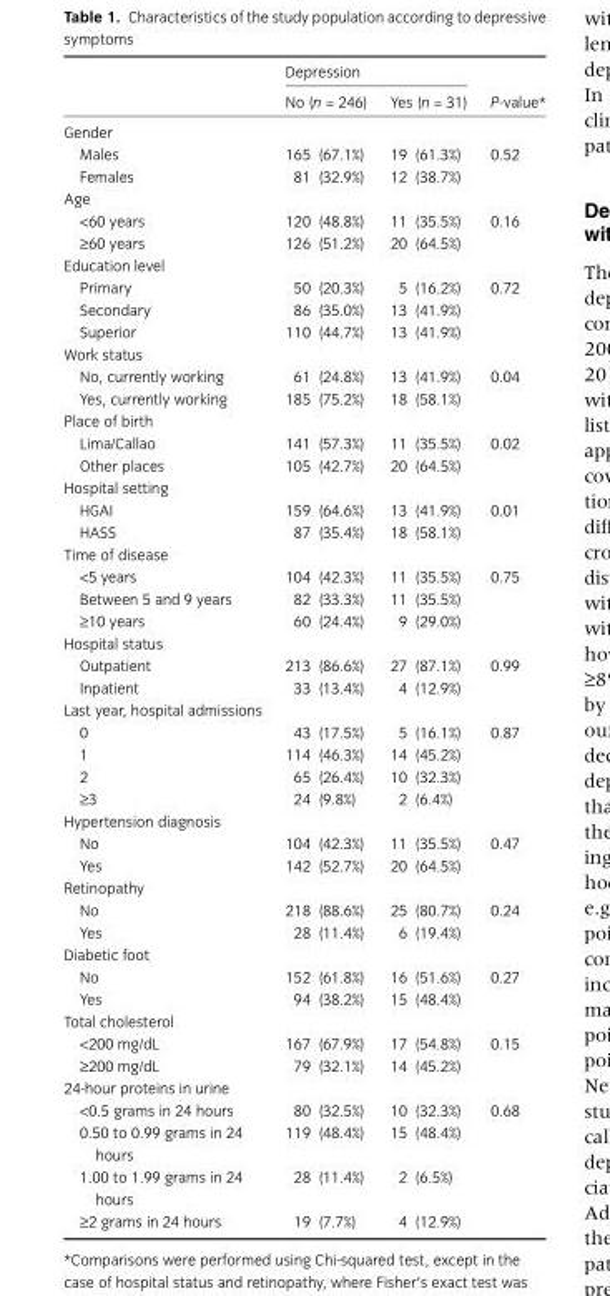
<table><thead><tr><td rowspan="2"></td><td colspan="2">Depression</td><td rowspan="2">P-value*</td></tr><tr><td>No (n = 246)</td><td>Yes (n = 31)</td></tr></thead><tbody><tr><td colspan="4">Gender</td></tr><tr><td>Males</td><td>165 (67.1%)</td><td>19 (61.3%)</td><td>0.52</td></tr><tr><td>Females</td><td>81 (32.9%)</td><td>12 (38.7%)</td><td></td></tr><tr><td colspan="4">Age</td></tr><tr><td>&lt;60 years</td><td>120 (48.8%)</td><td>11 (35.5%)</td><td>0.16</td></tr><tr><td>≥60 years</td><td>126 (51.2%)</td><td>20 (64.5%)</td><td></td></tr><tr><td colspan="4">Education level</td></tr><tr><td>Primary</td><td>50 (20.3%)</td><td>5 (16.2%)</td><td>0.72</td></tr><tr><td>Secondary</td><td>86 (35.0%)</td><td>13 (41.9%)</td><td></td></tr><tr><td>Superior</td><td>110 (44.7%)</td><td>13 (41.9%)</td><td></td></tr><tr><td colspan="4">Work status</td></tr><tr><td>No, currently working</td><td>61 (24.8%)</td><td>13 (41.9%)</td><td>0.04</td></tr><tr><td>Yes, currently working</td><td>185 (75.2%)</td><td>18 (58.1%)</td><td></td></tr><tr><td colspan="4">Place of birth</td></tr><tr><td>Lima/Callao</td><td>141 (57.3%)</td><td>11 (35.5%)</td><td>0.02</td></tr><tr><td>Other places</td><td>105 (42.7%)</td><td>20 (64.5%)</td><td></td></tr><tr><td colspan="4">Hospital setting</td></tr><tr><td>HGAI</td><td>159 (64.6%)</td><td>13 (41.9%)</td><td>0.01</td></tr><tr><td>HASS</td><td>87 (35.4%)</td><td>18 (58.1%)</td><td></td></tr><tr><td colspan="4">Time of disease</td></tr><tr><td>&lt;5 years</td><td>104 (42.3%)</td><td>11 (35.5%)</td><td>0.75</td></tr><tr><td>Between 5 and 9 years</td><td>82 (33.3%)</td><td>11 (35.5%)</td><td></td></tr><tr><td>≥10 years</td><td>60 (24.4%)</td><td>9 (29.0%)</td><td></td></tr><tr><td colspan="4">Hospital status</td></tr><tr><td>Outpatient</td><td>213 (86.6%)</td><td>27 (87.1%)</td><td>0.99</td></tr><tr><td>Inpatient</td><td>33 (13.4%)</td><td>4 (12.9%)</td><td></td></tr><tr><td colspan="4">Last year, hospital admissions</td></tr><tr><td>0</td><td>43 (17.5%)</td><td>5 (16.1%)</td><td>0.87</td></tr><tr><td>1</td><td>114 (46.3%)</td><td>14 (45.2%)</td><td></td></tr><tr><td>2</td><td>65 (26.4%)</td><td>10 (32.3%)</td><td></td></tr><tr><td>≥3</td><td>24 (9.8%)</td><td>2 (6.4%)</td><td></td></tr><tr><td colspan="4">Hypertension diagnosis</td></tr><tr><td>No</td><td>104 (42.3%)</td><td>11 (35.5%)</td><td>0.47</td></tr><tr><td>Yes</td><td>142 (52.7%)</td><td>20 (64.5%)</td><td></td></tr><tr><td colspan="4">Retinopathy</td></tr><tr><td>No</td><td>218 (88.6%)</td><td>25 (80.7%)</td><td>0.24</td></tr><tr><td>Yes</td><td>28 (11.4%)</td><td>6 (19.4%)</td><td></td></tr><tr><td colspan="4">Diabetic foot</td></tr><tr><td>No</td><td>152 (61.8%)</td><td>16 (51.6%)</td><td>0.27</td></tr><tr><td>Yes</td><td>94 (38.2%)</td><td>15 (48.4%)</td><td></td></tr><tr><td colspan="4">Total cholesterol</td></tr><tr><td>&lt;200 mg/dL</td><td>167 (67.9%)</td><td>17 (54.8%)</td><td>0.15</td></tr><tr><td>≥200 mg/dL</td><td>79 (32.1%)</td><td>14 (45.2%)</td><td></td></tr><tr><td colspan="4">24-hour proteins in urine</td></tr><tr><td>&lt;0.5 grams in 24 hours</td><td>80 (32.5%)</td><td>10 (32.3%)</td><td>0.68</td></tr><tr><td>0.50 to 0.99 grams in 24 hours</td><td>119 (48.4%)</td><td>15 (48.4%)</td><td></td></tr><tr><td>1.00 to 1.99 grams in 24 hours</td><td>28 (11.4%)</td><td>2 (6.5%)</td><td></td></tr><tr><td>≥2 grams in 24 hours</td><td>19 (7.7%)</td><td>4 (12.9%)</td><td></td></tr></tbody></table>